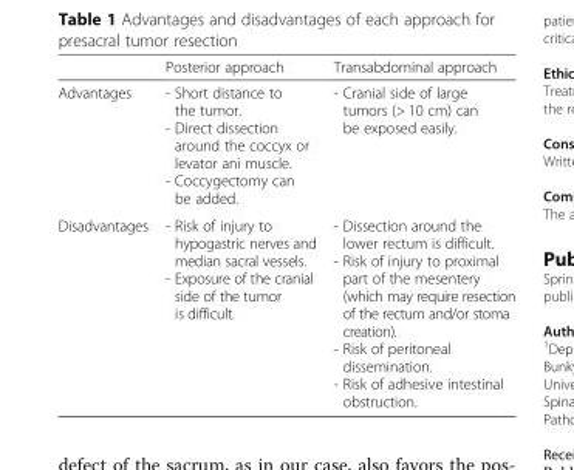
<table><thead><tr><td></td><td>Posterior approach</td><td>Transabdominal approach</td></tr></thead><tbody><tr><td>Advantages</td><td>- Short distance to the tumor. - Direct dissection around the coccyx or levator ani muscle. - Coccygectomy can be added.</td><td>- Cranial side of large tumors (&gt; 10 cm) can be exposed easily.</td></tr><tr><td>Disadvantages</td><td>- Risk of injury to hypogastric nerves and median sacral vessels. - Exposure of the cranial side of the tumor is difficult.</td><td>- Dissection around the lower rectum is difficult. - Risk of injury to proximal part of the mesentery (which may require resection of the rectum and/or stoma creation). - Risk of peritoneal dissemination. - Risk of adhesive intestinal obstruction.</td></tr></tbody></table>